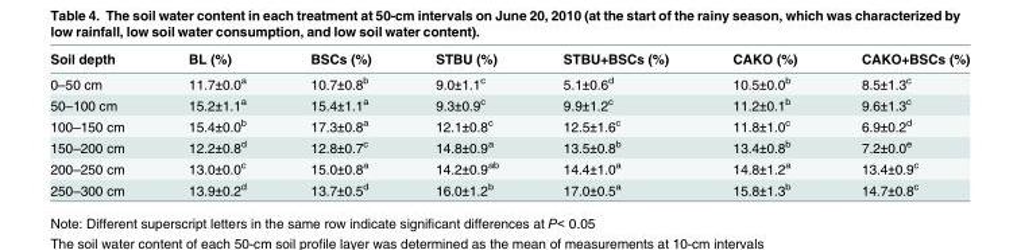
<table><thead><tr><td>Soil depth</td><td>BL (%)</td><td>BSCs (%)</td><td>STBU (%)</td><td>STBU+BSCs (%)</td><td>CAKO (%)</td><td>CAKO+BSCs (%)</td></tr></thead><tbody><tr><td>0–50 cm</td><td>11.7±0.0<sup>a</sup></td><td>10.7±0.8<sup>b</sup></td><td>9.0±1.1<sup>c</sup></td><td>5.1±0.6<sup>d</sup></td><td>10.5±0.0<sup>b</sup></td><td>8.5±1.3<sup>c</sup></td></tr><tr><td>50–100 cm</td><td>15.2±1.1<sup>a</sup></td><td>15.4±1.1<sup>a</sup></td><td>9.3±0.9<sup>c</sup></td><td>9.9±1.2<sup>c</sup></td><td>11.2±0.1<sup>b</sup></td><td>9.6±1.3<sup>c</sup></td></tr><tr><td>100–150 cm</td><td>15.4±0.0<sup>b</sup></td><td>17.3±0.8<sup>a</sup></td><td>12.1±0.8<sup>c</sup></td><td>12.5±1.6<sup>c</sup></td><td>11.8±1.0<sup>c</sup></td><td>6.9±0.2<sup>d</sup></td></tr><tr><td>150–200 cm</td><td>12.2±0.8<sup>d</sup></td><td>12.8±0.7<sup>c</sup></td><td>14.8±0.9<sup>a</sup></td><td>13.5±0.8<sup>b</sup></td><td>13.4±0.8<sup>b</sup></td><td>7.2±0.0<sup>e</sup></td></tr><tr><td>200–250 cm</td><td>13.0±0.0<sup>c</sup></td><td>15.0±0.8<sup>a</sup></td><td>14.2±0.9<sup>ab</sup></td><td>14.4±1.0<sup>a</sup></td><td>14.8±1.2<sup>a</sup></td><td>13.4±0.9<sup>c</sup></td></tr><tr><td>250–300 cm</td><td>13.9±0.2<sup>d</sup></td><td>13.7±0.5<sup>d</sup></td><td>16.0±1.2<sup>b</sup></td><td>17.0±0.5<sup>a</sup></td><td>15.8±1.3<sup>b</sup></td><td>14.7±0.8<sup>c</sup></td></tr></tbody></table>